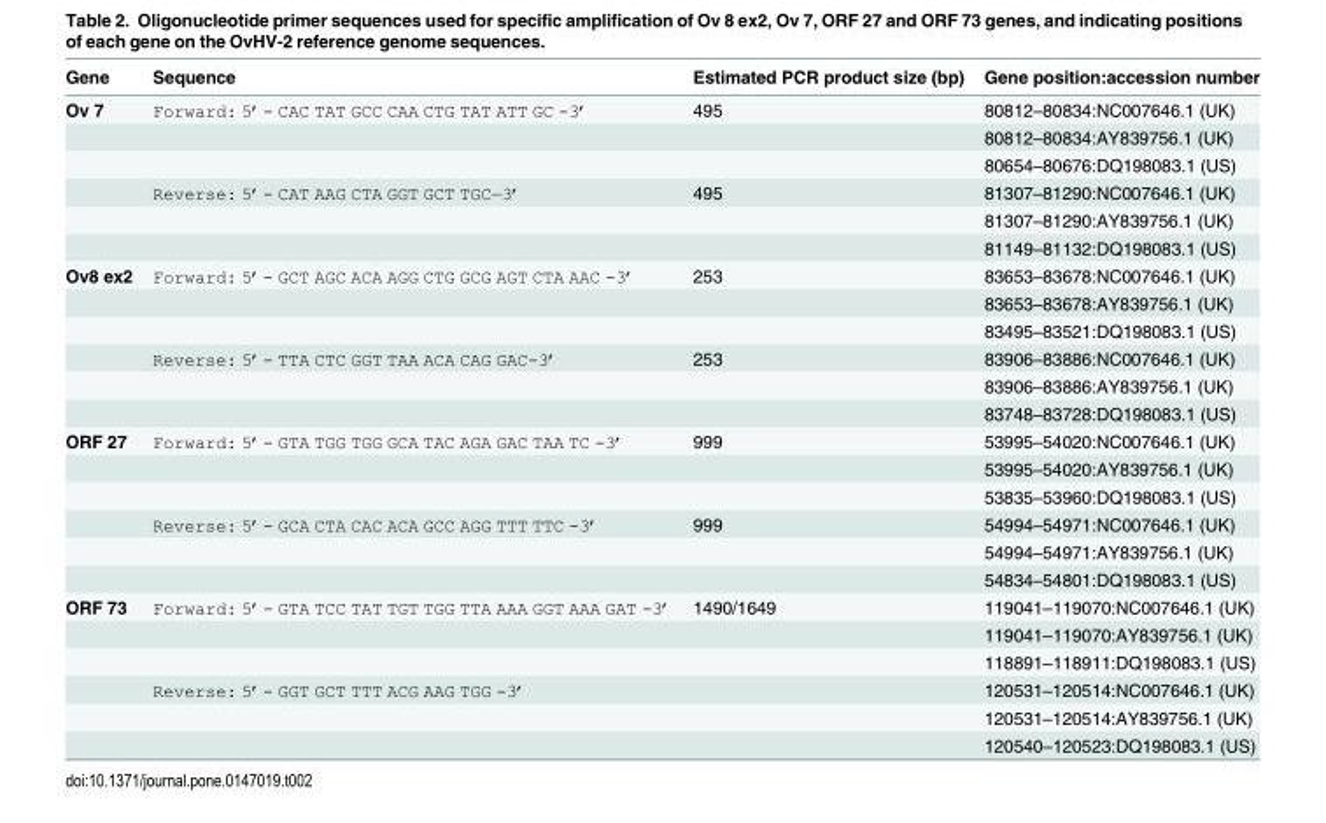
<table><thead><tr><td>Gene</td><td>Sequence</td><td>Estimated PCR product size (bp)</td><td>Gene position:accession number</td></tr></thead><tbody><tr><td rowspan="6">Ov 7</td><td>Forward: 5’- CAC TAT GCC CAA CTG TAT ATT GC -3’</td><td>495</td><td>80812–80834:NC007646.1 (UK)</td></tr><tr><td></td><td></td><td>80812–80834:AY839756.1 (UK)</td></tr><tr><td></td><td></td><td>80654–80676:DQ198083.1 (US)</td></tr><tr><td>Reverse: 5’- CAT AAG CTA GGT GCT TGC—3’</td><td>495</td><td>81307–81290:NC007646.1 (UK)</td></tr><tr><td></td><td></td><td>81307–81290:AY839756.1 (UK)</td></tr><tr><td></td><td></td><td>81149–81132:DQ198083.1 (US)</td></tr><tr><td rowspan="6">Ov8 ex2</td><td>Forward: 5’- GCT AGC ACA AGG CTG GCG AGT CTA AAC -3’</td><td>253</td><td>83653–83678:NC007646.1 (UK)</td></tr><tr><td></td><td></td><td>83653–83678:AY839756.1 (UK)</td></tr><tr><td></td><td></td><td>83495–83521:DQ198083.1 (US)</td></tr><tr><td>Reverse: 5’- TTA CTC GGT TAA ACA CAG GAC-3’</td><td>253</td><td>83906–83886:NC007646.1 (UK)</td></tr><tr><td></td><td></td><td>83906–83886:AY839756.1 (UK)</td></tr><tr><td></td><td></td><td>83748–83728:DQ198083.1 (US)</td></tr><tr><td rowspan="6">ORF 27</td><td>Forward: 5’- GTA TGG TGG GCA TAC AGA GAC TAA TC -3’</td><td>999</td><td>53995–54020:NC007646.1 (UK)</td></tr><tr><td></td><td></td><td>53995–54020:AY839756.1 (UK)</td></tr><tr><td></td><td></td><td>53835–53960:DQ198083.1 (US)</td></tr><tr><td>Reverse: 5’- GCA CTA CAC ACA GCC AGG TTT TTC -3’</td><td>999</td><td>54994–54971:NC007646.1 (UK)</td></tr><tr><td></td><td></td><td>54994–54971:AY839756.1 (UK)</td></tr><tr><td></td><td></td><td>54834–54801:DQ198083.1 (US)</td></tr><tr><td rowspan="6">ORF 73</td><td>Forward: 5’- GTA TCC TAT TGT TGG TTA AAA GGT AAA GAT -3’</td><td>1490/1649</td><td>119041–119070:NC007646.1 (UK)</td></tr><tr><td></td><td></td><td>119041–119070:AY839756.1 (UK)</td></tr><tr><td></td><td></td><td>118891–118911:DQ198083.1 (US)</td></tr><tr><td>Reverse: 5’- GGT GCT TTT ACG AAG TGG -3’</td><td></td><td>120531–120514:NC007646.1 (UK)</td></tr><tr><td></td><td></td><td>120531–120514:AY839756.1 (UK)</td></tr><tr><td></td><td></td><td>120540–120523:DQ198083.1 (US)</td></tr></tbody></table>